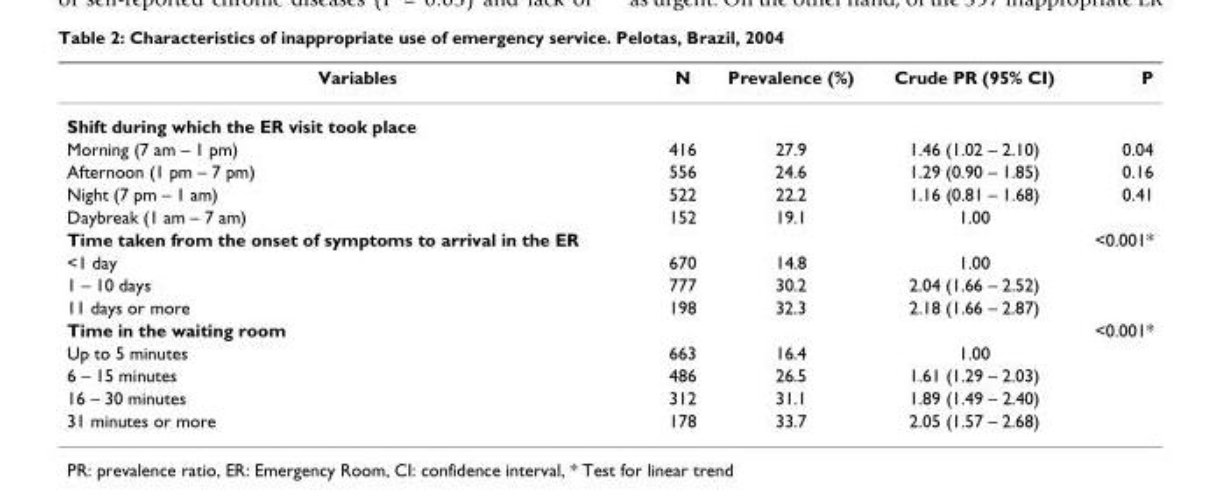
<table><thead><tr><td>Variables</td><td>N</td><td>Prevalence (%)</td><td>Crude PR (95% CI)</td><td>P</td></tr></thead><tbody><tr><td colspan="5">Shift during which the ER visit took place</td></tr><tr><td>Morning (7 am – 1 pm)</td><td>416</td><td>27.9</td><td>1.46 (1.02 – 2.10)</td><td>0.04</td></tr><tr><td>Afternoon (1 pm – 7 pm)</td><td>556</td><td>24.6</td><td>1.29 (0.90 – 1.85)</td><td>0.16</td></tr><tr><td>Night (7 pm – 1 am)</td><td>522</td><td>22.2</td><td>1.16 (0.81 – 1.68)</td><td>0.41</td></tr><tr><td>Daybreak (1 am – 7 am)</td><td>152</td><td>19.1</td><td>1.00</td><td></td></tr><tr><td>Time taken from the onset of symptoms to arrival in the ER</td><td></td><td></td><td></td><td>&lt;0.001*</td></tr><tr><td>&lt;1 day</td><td>670</td><td>14.8</td><td>1.00</td><td></td></tr><tr><td>1 – 10 days</td><td>777</td><td>30.2</td><td>2.04 (1.66 – 2.52)</td><td></td></tr><tr><td>11 days or more</td><td>198</td><td>32.3</td><td>2.18 (1.66 – 2.87)</td><td></td></tr><tr><td>Time in the waiting room</td><td></td><td></td><td></td><td>&lt;0.001*</td></tr><tr><td>Up to 5 minutes</td><td>663</td><td>16.4</td><td>1.00</td><td></td></tr><tr><td>6 – 15 minutes</td><td>486</td><td>26.5</td><td>1.61 (1.29 – 2.03)</td><td></td></tr><tr><td>16 – 30 minutes</td><td>312</td><td>31.1</td><td>1.89 (1.49 – 2.40)</td><td></td></tr><tr><td>31 minutes or more</td><td>178</td><td>33.7</td><td>2.05 (1.57 – 2.68)</td><td></td></tr></tbody></table>